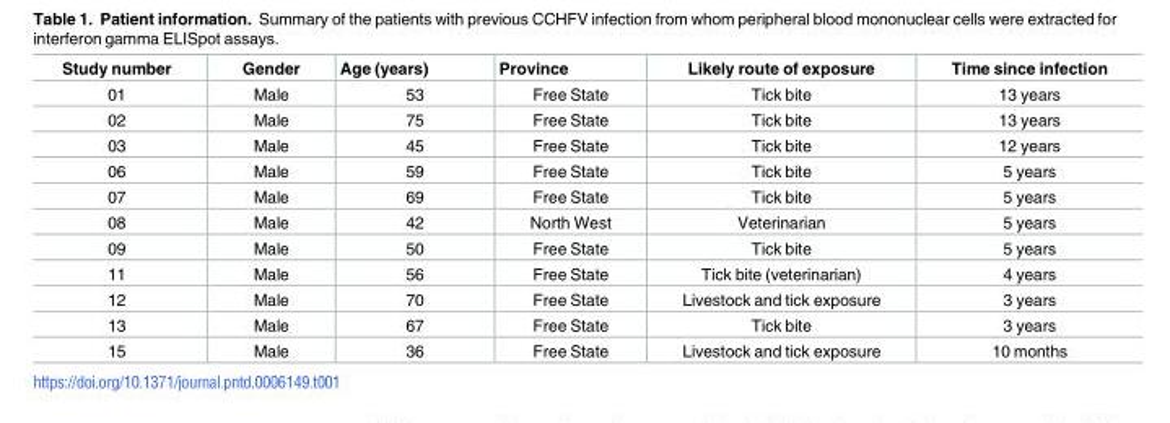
<table><thead><tr><td>Study number</td><td>Gender</td><td>Age (years)</td><td>Province</td><td>Likely route of exposure</td><td>Time since infection</td></tr></thead><tbody><tr><td>01</td><td>Male</td><td>53</td><td>Free State</td><td>Tick bite</td><td>13 years</td></tr><tr><td>02</td><td>Male</td><td>75</td><td>Free State</td><td>Tick bite</td><td>13 years</td></tr><tr><td>03</td><td>Male</td><td>45</td><td>Free State</td><td>Tick bite</td><td>12 years</td></tr><tr><td>06</td><td>Male</td><td>59</td><td>Free State</td><td>Tick bite</td><td>5 years</td></tr><tr><td>07</td><td>Male</td><td>69</td><td>Free State</td><td>Tick bite</td><td>5 years</td></tr><tr><td>08</td><td>Male</td><td>42</td><td>North West</td><td>Veterinarian</td><td>5 years</td></tr><tr><td>09</td><td>Male</td><td>50</td><td>Free State</td><td>Tick bite</td><td>5 years</td></tr><tr><td>11</td><td>Male</td><td>56</td><td>Free State</td><td>Tick bite (veterinarian)</td><td>4 years</td></tr><tr><td>12</td><td>Male</td><td>70</td><td>Free State</td><td>Livestock and tick exposure</td><td>3 years</td></tr><tr><td>13</td><td>Male</td><td>67</td><td>Free State</td><td>Tick bite</td><td>3 years</td></tr><tr><td>15</td><td>Male</td><td>36</td><td>Free State</td><td>Livestock and tick exposure</td><td>10 months</td></tr></tbody></table>